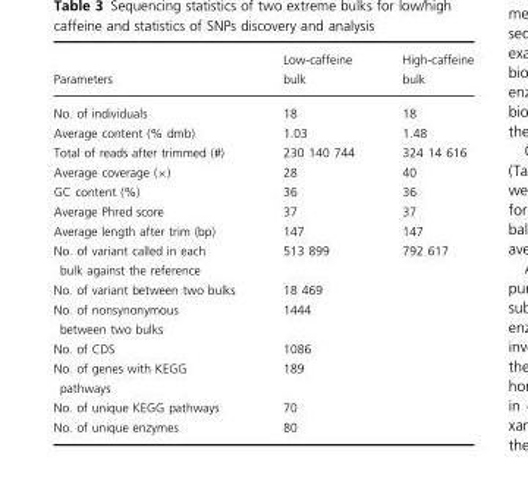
<table><thead><tr><td>Parameters</td><td>Low-caffeine bulk</td><td>High-caffeine bulk</td></tr></thead><tbody><tr><td>No. of individuals</td><td>18</td><td>18</td></tr><tr><td>Average content (% dmb)</td><td>1.03</td><td>1.48</td></tr><tr><td>Total of reads after trimmed (#)</td><td>230 140 744</td><td>324 14 616</td></tr><tr><td>Average coverage (×)</td><td>28</td><td>40</td></tr><tr><td>GC content (%)</td><td>36</td><td>36</td></tr><tr><td>Average Phred score</td><td>37</td><td>37</td></tr><tr><td>Average length after trim (bp)</td><td>147</td><td>147</td></tr><tr><td>No. of variant called in each bulk against the reference</td><td>513 899</td><td>792 617</td></tr><tr><td>No. of variant between two bulks</td><td colspan="2">18 469</td></tr><tr><td>No. of nonsynonymous between two bulks</td><td colspan="2">1444</td></tr><tr><td>No. of CDS</td><td colspan="2">1086</td></tr><tr><td>No. of genes with KEGG pathways</td><td colspan="2">189</td></tr><tr><td>No. of unique KEGG pathways</td><td colspan="2">70</td></tr><tr><td>No. of unique enzymes</td><td colspan="2">80</td></tr></tbody></table>